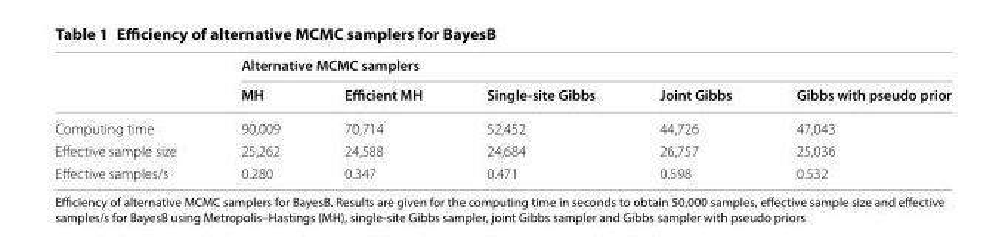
<table><thead><tr><td rowspan="2"></td><td colspan="5">Alternative MCMC samplers</td></tr><tr><td>MH</td><td>Efficient MH</td><td>Single-site Gibbs</td><td>Joint Gibbs</td><td>Gibbs with pseudo prior</td></tr></thead><tbody><tr><td>Computing time</td><td>90,009</td><td>70,714</td><td>52,452</td><td>44,726</td><td>47,043</td></tr><tr><td>Effective sample size</td><td>25,262</td><td>24,588</td><td>24,684</td><td>26,757</td><td>25,036</td></tr><tr><td>Effective samples/s</td><td>0.280</td><td>0.347</td><td>0.471</td><td>0.598</td><td>0.532</td></tr></tbody></table>